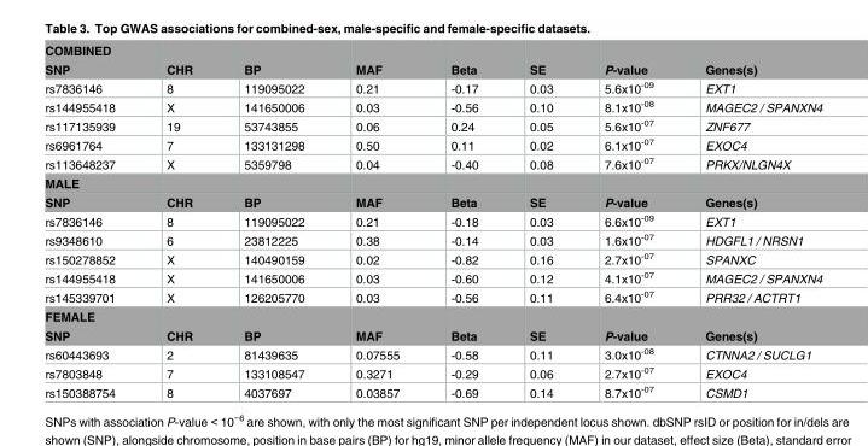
<table><tbody><tr><td colspan="8">COMBINED</td></tr><tr><td>SNP</td><td>CHR</td><td>BP</td><td>MAF</td><td>Beta</td><td>SE</td><td>P-value</td><td>Genes(s)</td></tr><tr><td>rs7836146</td><td>8</td><td>119095022</td><td>0.21</td><td>-0.17</td><td>0.03</td><td>5.6x10<sup>-09</sup></td><td>EXT1</td></tr><tr><td>rs144955418</td><td>X</td><td>141650006</td><td>0.03</td><td>-0.56</td><td>0.10</td><td>8.1x10<sup>-08</sup></td><td>MAGEC2 / SPANXN4</td></tr><tr><td>rs117135939</td><td>19</td><td>53743855</td><td>0.06</td><td>0.24</td><td>0.05</td><td>5.6x10<sup>-07</sup></td><td>ZNF677</td></tr><tr><td>rs6961764</td><td>7</td><td>133131298</td><td>0.50</td><td>0.11</td><td>0.02</td><td>6.1x10<sup>-07</sup></td><td>EXOC4</td></tr><tr><td>rs113648237</td><td>X</td><td>5359798</td><td>0.04</td><td>-0.40</td><td>0.08</td><td>7.6x10<sup>-07</sup></td><td>PRKX/NLGN4X</td></tr><tr><td colspan="8">MALE</td></tr><tr><td>SNP</td><td>CHR</td><td>BP</td><td>MAF</td><td>Beta</td><td>SE</td><td>P-value</td><td>Genes(s)</td></tr><tr><td>rs7836146</td><td>8</td><td>119095022</td><td>0.21</td><td>-0.18</td><td>0.03</td><td>6.6x10<sup>-09</sup></td><td>EXT1</td></tr><tr><td>rs9348610</td><td>6</td><td>23812225</td><td>0.38</td><td>-0.14</td><td>0.03</td><td>1.6x10<sup>-07</sup></td><td>HDGFL1 / NRSN1</td></tr><tr><td>rs150278852</td><td>X</td><td>140490159</td><td>0.02</td><td>-0.82</td><td>0.16</td><td>2.7x10<sup>-07</sup></td><td>SPANXC</td></tr><tr><td>rs144955418</td><td>X</td><td>141650006</td><td>0.03</td><td>-0.60</td><td>0.12</td><td>4.1x10<sup>-07</sup></td><td>MAGEC2 / SPANXN4</td></tr><tr><td>rs145339701</td><td>X</td><td>126205770</td><td>0.03</td><td>-0.56</td><td>0.11</td><td>6.4x10<sup>-07</sup></td><td>PRR32 / ACTRT1</td></tr><tr><td colspan="8">FEMALE</td></tr><tr><td>SNP</td><td>CHR</td><td>BP</td><td>MAF</td><td>Beta</td><td>SE</td><td>P-value</td><td>Genes(s)</td></tr><tr><td>rs60443693</td><td>2</td><td>81439635</td><td>0.07555</td><td>-0.58</td><td>0.11</td><td>3.0x10<sup>-08</sup></td><td>CTNNA2 / SUCLG1</td></tr><tr><td>rs7803848</td><td>7</td><td>133108547</td><td>0.3271</td><td>-0.29</td><td>0.06</td><td>2.7x10<sup>-07</sup></td><td>EXOC4</td></tr><tr><td>rs150388754</td><td>8</td><td>4037697</td><td>0.03857</td><td>-0.69</td><td>0.14</td><td>8.7x10<sup>-07</sup></td><td>CSMD1</td></tr></tbody></table>